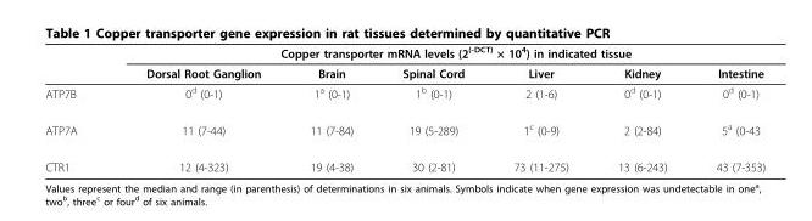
<table><thead><tr><td rowspan="2"></td><td colspan="6">Copper transporter mRNA levels (2<sup>(-DCT)</sup> × 10<sup>4</sup>) in indicated tissue</td></tr><tr><td>Dorsal Root Ganglion</td><td>Brain</td><td>Spinal Cord</td><td>Liver</td><td>Kidney</td><td>Intestine</td></tr></thead><tbody><tr><td>ATP7B</td><td>0<sup>d</sup> (0-1)</td><td>1<sup>a</sup> (0-1)</td><td>1<sup>b</sup> (0-1)</td><td>2 (1-6)</td><td>0<sup>d</sup> (0-1)</td><td>0<sup>d</sup> (0-1)</td></tr><tr><td>ATP7A</td><td>11 (7-44)</td><td>11 (7-84)</td><td>19 (5-289)</td><td>1<sup>c</sup> (0-9)</td><td>2 (2-84)</td><td>5<sup>a</sup> (0-43</td></tr><tr><td>CTR1</td><td>12 (4-323)</td><td>19 (4-38)</td><td>30 (2-81)</td><td>73 (11-275)</td><td>13 (6-243)</td><td>43 (7-353)</td></tr></tbody></table>